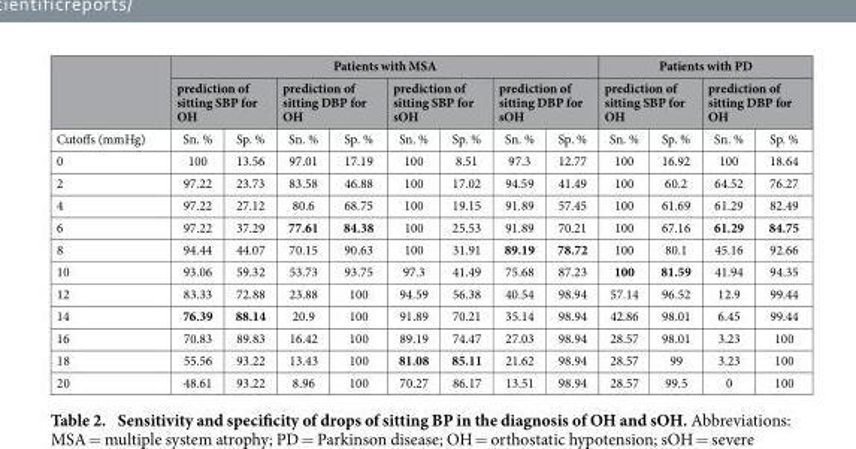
<table><thead><tr><td rowspan="3">Cutoffs (mmHg)</td><td colspan="8">Patients with MSA</td><td colspan="4">Patients with PD</td></tr><tr><td colspan="2">prediction of sitting SBP for OH</td><td colspan="2">prediction of sitting DBP for OH</td><td colspan="2">prediction of sitting SBP for sOH</td><td colspan="2">prediction of sitting DBP for sOH</td><td colspan="2">prediction of sitting SBP for OH</td><td colspan="2">prediction of sitting DBP for OH</td></tr><tr><td>Sn. %</td><td>Sp. %</td><td>Sn. %</td><td>Sp. %</td><td>Sn. %</td><td>Sp. %</td><td>Sn. %</td><td>Sp. %</td><td>Sn. %</td><td>Sp. %</td><td>Sn. %</td><td>Sp. %</td></tr></thead><tbody><tr><td>0</td><td>100</td><td>13.56</td><td>97.01</td><td>17.19</td><td>100</td><td>8.51</td><td>97.3</td><td>12.77</td><td>100</td><td>16.92</td><td>100</td><td>18.64</td></tr><tr><td>2</td><td>97.22</td><td>23.73</td><td>83.58</td><td>46.88</td><td>100</td><td>17.02</td><td>94.59</td><td>41.49</td><td>100</td><td>60.2</td><td>64.52</td><td>76.27</td></tr><tr><td>4</td><td>97.22</td><td>27.12</td><td>80.6</td><td>68.75</td><td>100</td><td>19.15</td><td>91.89</td><td>57.45</td><td>100</td><td>61.69</td><td>61.29</td><td>82.49</td></tr><tr><td>6</td><td>97.22</td><td>37.29</td><td>77.61</td><td>84.38</td><td>100</td><td>25.53</td><td>91.89</td><td>70.21</td><td>100</td><td>67.16</td><td>61.29</td><td>84.75</td></tr><tr><td>8</td><td>94.44</td><td>44.07</td><td>70.15</td><td>90.63</td><td>100</td><td>31.91</td><td>89.19</td><td>78.72</td><td>100</td><td>80.1</td><td>45.16</td><td>92.66</td></tr><tr><td>10</td><td>93.06</td><td>59.32</td><td>53.73</td><td>93.75</td><td>97.3</td><td>41.49</td><td>75.68</td><td>87.23</td><td>100</td><td>81.59</td><td>41.94</td><td>94.35</td></tr><tr><td>12</td><td>83.33</td><td>72.88</td><td>23.88</td><td>100</td><td>94.59</td><td>56.38</td><td>40.54</td><td>98.94</td><td>57.14</td><td>96.52</td><td>12.9</td><td>99.44</td></tr><tr><td>14</td><td>76.39</td><td>88.14</td><td>20.9</td><td>100</td><td>91.89</td><td>70.21</td><td>35.14</td><td>98.94</td><td>42.86</td><td>98.01</td><td>6.45</td><td>99.44</td></tr><tr><td>16</td><td>70.83</td><td>89.83</td><td>16.42</td><td>100</td><td>89.19</td><td>74.47</td><td>27.03</td><td>98.94</td><td>28.57</td><td>98.01</td><td>3.23</td><td>100</td></tr><tr><td>18</td><td>55.56</td><td>93.22</td><td>13.43</td><td>100</td><td>81.08</td><td>85.11</td><td>21.62</td><td>98.94</td><td>28.57</td><td>99</td><td>3.23</td><td>100</td></tr><tr><td>20</td><td>48.61</td><td>93.22</td><td>8.96</td><td>100</td><td>70.27</td><td>86.17</td><td>13.51</td><td>98.94</td><td>28.57</td><td>99.5</td><td>0</td><td>100</td></tr></tbody></table>